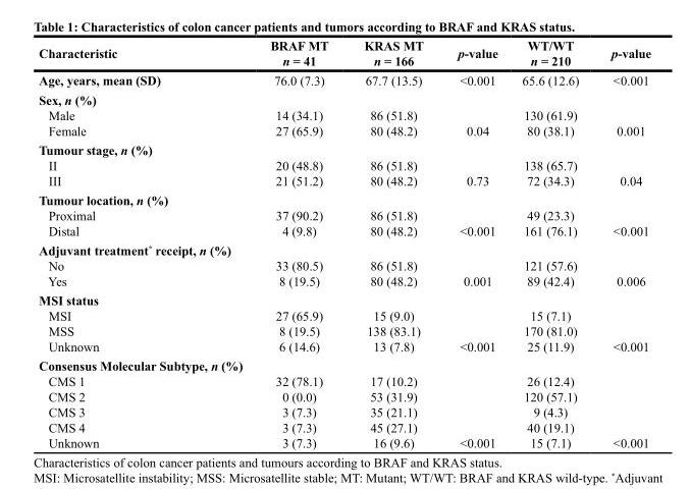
<table><thead><tr><td>Characteristic</td><td>BRAF MT n = 41</td><td>KRAS MT n = 166</td><td>p-value</td><td>WT/WT n = 210</td><td>p-value</td></tr></thead><tbody><tr><td>Age, years, mean (SD)</td><td>76.0 (7.3)</td><td>67.7 (13.5)</td><td>&lt;0.001</td><td>65.6 (12.6)</td><td>&lt;0.001</td></tr><tr><td>Sex, n (%) Male Female</td><td>14 (34.1) 27 (65.9)</td><td>86 (51.8) 80 (48.2)</td><td>0.04</td><td>130 (61.9) 80 (38.1)</td><td>0.001</td></tr><tr><td>Tumour stage, n (%) II III</td><td>20 (48.8) 21 (51.2)</td><td>86 (51.8) 80 (48.2)</td><td>0.73</td><td>138 (65.7) 72 (34.3)</td><td>0.04</td></tr><tr><td>Tumour location, n (%) Proximal Distal</td><td>37 (90.2) 4 (9.8)</td><td>86 (51.8) 80 (48.2)</td><td>&lt;0.001</td><td>49 (23.3) 161 (76.1)</td><td>&lt;0.001</td></tr><tr><td>Adjuvant treatment* receipt, n (%) No Yes</td><td>33 (80.5) 8 (19.5)</td><td>86 (51.8) 80 (48.2)</td><td>0.001</td><td>121 (57.6) 89 (42.4)</td><td>0.006</td></tr><tr><td>MSI status MSI MSS Unknown</td><td>27 (65.9) 8 (19.5) 6 (14.6)</td><td>15 (9.0) 138 (83.1) 13 (7.8)</td><td>&lt;0.001</td><td>15 (7.1) 170 (81.0) 25 (11.9)</td><td>&lt;0.001</td></tr><tr><td>Consensus Molecular Subtype, n (%) CMS 1 CMS 2 CMS 3 CMS 4 Unknown</td><td>32 (78.1) 0 (0.0) 3 (7.3) 3 (7.3) 3 (7.3)</td><td>17 (10.2) 53 (31.9) 35 (21.1) 45 (27.1) 16 (9.6)</td><td>&lt;0.001</td><td>26 (12.4) 120 (57.1) 9 (4.3) 40 (19.1) 15 (7.1)</td><td>&lt;0.001</td></tr></tbody></table>